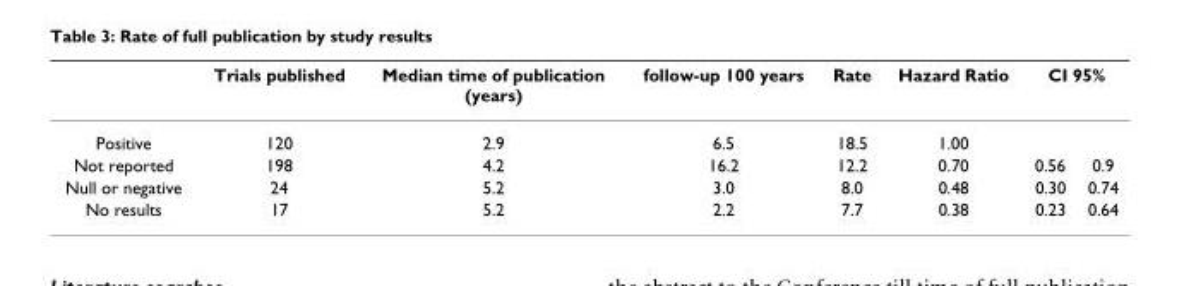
<table><thead><tr><td rowspan="2">Positive</td><td rowspan="2">Trials published 120</td><td rowspan="2">Median time of publication (years) 2.9</td><td rowspan="2">follow-up 100 years 6.5</td><td rowspan="2">Rate 18.5</td><td rowspan="2">Hazard Ratio 1.00</td><td colspan="2">CI 95%</td></tr><tr><td></td><td></td></tr></thead><tbody><tr><td>Not reported</td><td>198</td><td>4.2</td><td>16.2</td><td>12.2</td><td>0.70</td><td>0.56</td><td>0.9</td></tr><tr><td>Null or negative</td><td>24</td><td>5.2</td><td>3.0</td><td>8.0</td><td>0.48</td><td>0.30</td><td>0.74</td></tr><tr><td>No results</td><td>17</td><td>5.2</td><td>2.2</td><td>7.7</td><td>0.38</td><td>0.23</td><td>0.64</td></tr></tbody></table>